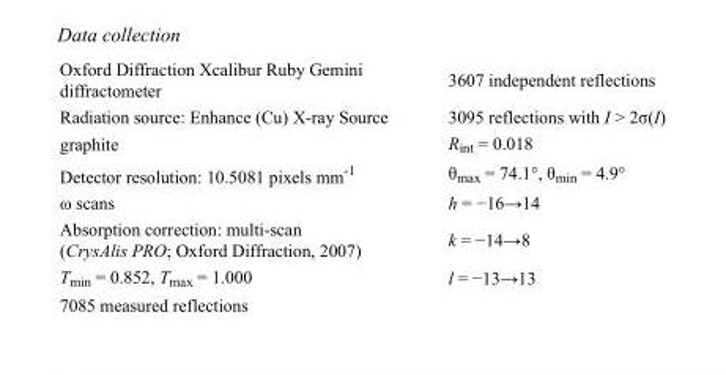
<table><tbody><tr><td>Oxford Diffraction Xcalibur Ruby Gemini diffractometer</td><td>3607 independent reflections</td></tr><tr><td>Radiation source: Enhance (Cu) X-ray Source</td><td>3095 reflections with I &gt; 2σ(I)</td></tr><tr><td>graphite</td><td>R<sub>int</sub> = 0.018</td></tr><tr><td>Detector resolution: 10.5081 pixels mm<sup>-1</sup></td><td>θ<sub>max</sub> = 74.1°, θ<sub>min</sub> = 4.9°</td></tr><tr><td>ω scans</td><td>h = −16→14</td></tr><tr><td>Absorption correction: multi-scan (CrysAlis PRO; Oxford Diffraction, 2007)</td><td>k = −14→8</td></tr><tr><td>T<sub>min</sub> = 0.852, T<sub>max</sub> = 1.000</td><td>l = −13→13</td></tr><tr><td>7085 measured reflections</td><td></td></tr></tbody></table>